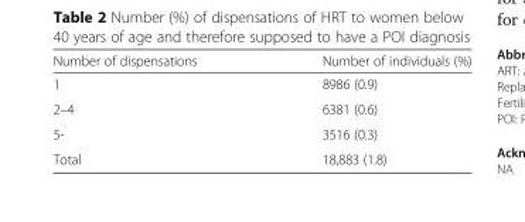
<table><thead><tr><td>Number of dispensations</td><td>Number of individuals (%)</td></tr></thead><tbody><tr><td>1</td><td>8986 (0.9)</td></tr><tr><td>2–4</td><td>6381 (0.6)</td></tr><tr><td>5-</td><td>3516 (0.3)</td></tr><tr><td>Total</td><td>18,883 (1.8)</td></tr></tbody></table>